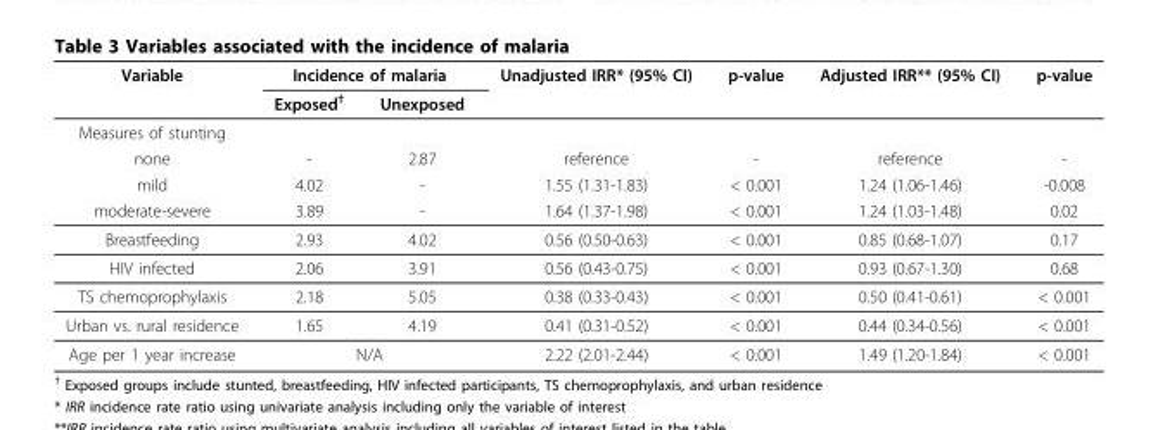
<table><thead><tr><td rowspan="2">Variable</td><td colspan="2">Incidence of malaria</td><td rowspan="2">Unadjusted IRR* (95% CI)</td><td rowspan="2">p-value</td><td rowspan="2">Adjusted IRR** (95% CI)</td><td rowspan="2">p-value</td></tr><tr><td>Exposed<sup>†</sup></td><td>Unexposed</td></tr></thead><tbody><tr><td colspan="7">Measures of stunting</td></tr><tr><td>none</td><td>-</td><td>2.87</td><td>reference</td><td>-</td><td>reference</td><td>-</td></tr><tr><td>mild</td><td>4.02</td><td>-</td><td>1.55 (1.31-1.83)</td><td>&lt; 0.001</td><td>1.24 (1.06-1.46)</td><td>-0.008</td></tr><tr><td>moderate-severe</td><td>3.89</td><td>-</td><td>1.64 (1.37-1.98)</td><td>&lt; 0.001</td><td>1.24 (1.03-1.48)</td><td>0.02</td></tr><tr><td>Breastfeeding</td><td>2.93</td><td>4.02</td><td>0.56 (0.50-0.63)</td><td>&lt; 0.001</td><td>0.85 (0.68-1.07)</td><td>0.17</td></tr><tr><td>HIV infected</td><td>2.06</td><td>3.91</td><td>0.56 (0.43-0.75)</td><td>&lt; 0.001</td><td>0.93 (0.67-1.30)</td><td>0.68</td></tr><tr><td>TS chemoprophylaxis</td><td>2.18</td><td>5.05</td><td>0.38 (0.33-0.43)</td><td>&lt; 0.001</td><td>0.50 (0.41-0.61)</td><td>&lt; 0.001</td></tr><tr><td>Urban vs. rural residence</td><td>1.65</td><td>4.19</td><td>0.41 (0.31-0.52)</td><td>&lt; 0.001</td><td>0.44 (0.34-0.56)</td><td>&lt; 0.001</td></tr><tr><td>Age per 1 year increase</td><td colspan="2">N/A</td><td>2.22 (2.01-2.44)</td><td>&lt; 0.001</td><td>1.49 (1.20-1.84)</td><td>&lt; 0.001</td></tr></tbody></table>